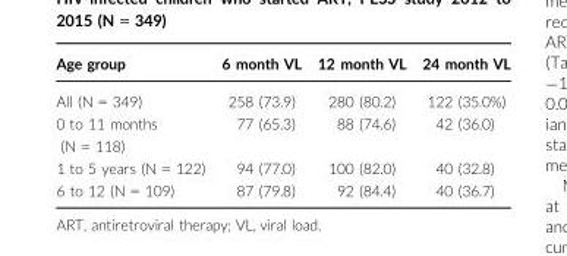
<table><thead><tr><td>Age group</td><td>6 month VL</td><td>12 month VL</td><td>24 month VL</td></tr></thead><tbody><tr><td>All (N = 349)</td><td>258 (73.9)</td><td>280 (80.2)</td><td>122 (35.0%)</td></tr><tr><td>0 to 11 months (N = 118)</td><td>77 (65.3)</td><td>88 (74.6)</td><td>42 (36.0)</td></tr><tr><td>1 to 5 years (N = 122)</td><td>94 (77.0)</td><td>100 (82.0)</td><td>40 (32.8)</td></tr><tr><td>6 to 12 (N = 109)</td><td>87 (79.8)</td><td>92 (84.4)</td><td>40 (36.7)</td></tr></tbody></table>